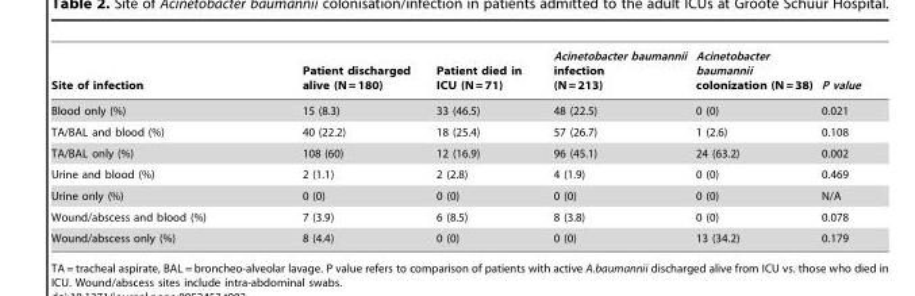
<table><thead><tr><td>Site of infection</td><td>Patient discharged alive (N = 180)</td><td>Patient died in ICU (N = 71)</td><td>Acinetobacter baumannii infection (N = 213)</td><td>Acinetobacter baumannii colonization (N = 38)</td><td>P value</td></tr></thead><tbody><tr><td>Blood only (%)</td><td>15 (8.3)</td><td>33 (46.5)</td><td>48 (22.5)</td><td>0 (0)</td><td>0.021</td></tr><tr><td>TA/BAL and blood (%)</td><td>40 (22.2)</td><td>18 (25.4)</td><td>57 (26.7)</td><td>1 (2.6)</td><td>0.108</td></tr><tr><td>TA/BAL only (%)</td><td>108 (60)</td><td>12 (16.9)</td><td>96 (45.1)</td><td>24 (63.2)</td><td>0.002</td></tr><tr><td>Urine and blood (%)</td><td>2 (1.1)</td><td>2 (2.8)</td><td>4 (1.9)</td><td>0 (0)</td><td>0.469</td></tr><tr><td>Urine only (%)</td><td>0 (0)</td><td>0 (0)</td><td>0 (0)</td><td>0 (0)</td><td>N/A</td></tr><tr><td>Wound/abscess and blood (%)</td><td>7 (3.9)</td><td>6 (8.5)</td><td>8 (3.8)</td><td>0 (0)</td><td>0.078</td></tr><tr><td>Wound/abscess only (%)</td><td>8 (4.4)</td><td>0 (0)</td><td>0 (0)</td><td>13 (34.2)</td><td>0.179</td></tr></tbody></table>